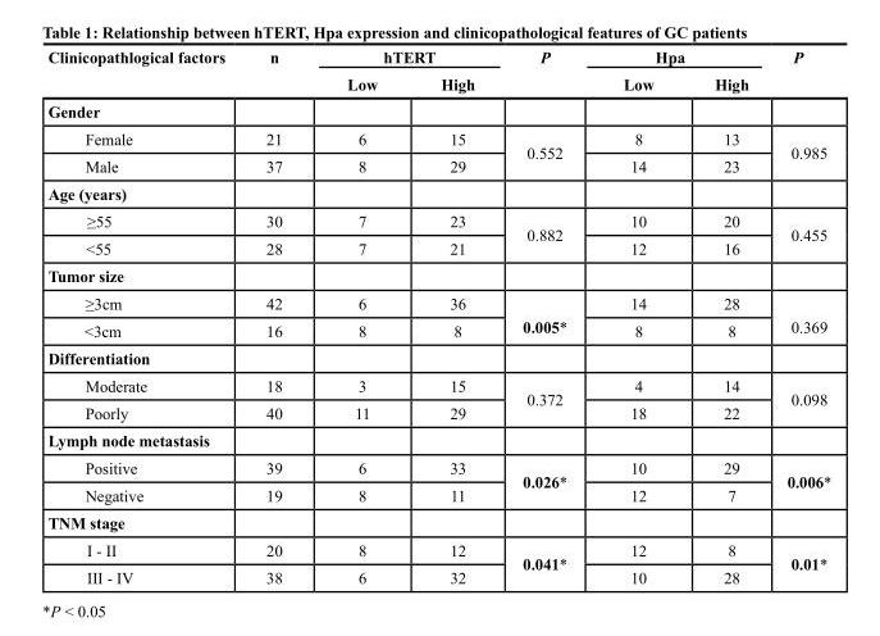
<table><thead><tr><td rowspan="2">Clinicopathlogical factors</td><td rowspan="2">n</td><td colspan="2">hTERT</td><td rowspan="2">P</td><td colspan="2">Hpa</td><td rowspan="2">P</td></tr><tr><td>Low</td><td>High</td><td>Low</td><td>High</td></tr></thead><tbody><tr><td colspan="8">Gender</td></tr><tr><td>Female</td><td>21</td><td>6</td><td>15</td><td rowspan="2">0.552</td><td>8</td><td>13</td><td rowspan="2">0.985</td></tr><tr><td>Male</td><td>37</td><td>8</td><td>29</td><td>14</td><td>23</td></tr><tr><td colspan="8">Age (years)</td></tr><tr><td>≥55</td><td>30</td><td>7</td><td>23</td><td rowspan="2">0.882</td><td>10</td><td>20</td><td rowspan="2">0.455</td></tr><tr><td>&lt;55</td><td>28</td><td>7</td><td>21</td><td>12</td><td>16</td></tr><tr><td colspan="8">Tumor size</td></tr><tr><td>≥3cm</td><td>42</td><td>6</td><td>36</td><td rowspan="2">0.005*</td><td>14</td><td>28</td><td rowspan="2">0.369</td></tr><tr><td>&lt;3cm</td><td>16</td><td>8</td><td>8</td><td>8</td><td>8</td></tr><tr><td colspan="8">Differentiation</td></tr><tr><td>Moderate</td><td>18</td><td>3</td><td>15</td><td rowspan="2">0.372</td><td>4</td><td>14</td><td rowspan="2">0.098</td></tr><tr><td>Poorly</td><td>40</td><td>11</td><td>29</td><td>18</td><td>22</td></tr><tr><td colspan="8">Lymph node metastasis</td></tr><tr><td>Positive</td><td>39</td><td>6</td><td>33</td><td rowspan="2">0.026*</td><td>10</td><td>29</td><td rowspan="2">0.006*</td></tr><tr><td>Negative</td><td>19</td><td>8</td><td>11</td><td>12</td><td>7</td></tr><tr><td colspan="8">TNM stage</td></tr><tr><td>I - II</td><td>20</td><td>8</td><td>12</td><td rowspan="2">0.041*</td><td>12</td><td>8</td><td rowspan="2">0.01*</td></tr><tr><td>III - IV</td><td>38</td><td>6</td><td>32</td><td>10</td><td>28</td></tr></tbody></table>